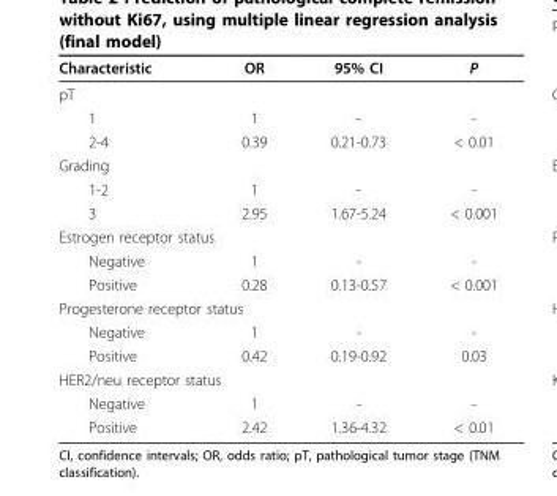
<table><thead><tr><td>Characteristic</td><td>OR</td><td>95% CI</td><td>P</td></tr></thead><tbody><tr><td colspan="4">pT</td></tr><tr><td>1</td><td>1</td><td>-</td><td>-</td></tr><tr><td>2-4</td><td>0.39</td><td>0.21-0.73</td><td>&lt; 0.01</td></tr><tr><td colspan="4">Grading</td></tr><tr><td>1-2</td><td>1</td><td>-</td><td>-</td></tr><tr><td>3</td><td>2.95</td><td>1.67-5.24</td><td>&lt; 0.001</td></tr><tr><td colspan="4">Estrogen receptor status</td></tr><tr><td>Negative</td><td>1</td><td>-</td><td>-</td></tr><tr><td>Positive</td><td>0.28</td><td>0.13-0.57</td><td>&lt; 0.001</td></tr><tr><td colspan="4">Progesterone receptor status</td></tr><tr><td>Negative</td><td>1</td><td>-</td><td>-</td></tr><tr><td>Positive</td><td>0.42</td><td>0.19-0.92</td><td>0.03</td></tr><tr><td colspan="4">HER2/neu receptor status</td></tr><tr><td>Negative</td><td>1</td><td>-</td><td>-</td></tr><tr><td>Positive</td><td>2.42</td><td>1.36-4.32</td><td>&lt; 0.01</td></tr></tbody></table>